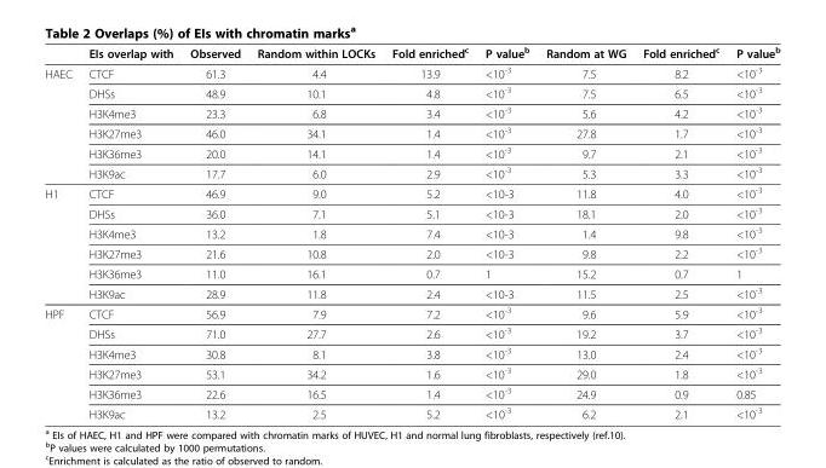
<table><thead><tr><td></td><td>EIs overlap with</td><td>Observed</td><td>Random within LOCKs</td><td>Fold enriched<sup>c</sup></td><td>P value<sup>b</sup></td><td>Random at WG</td><td>Fold enriched<sup>c</sup></td><td>P value<sup>b</sup></td></tr></thead><tbody><tr><td rowspan="6">HAEC</td><td>CTCF</td><td>61.3</td><td>4.4</td><td>13.9</td><td>&lt;10<sup>-3</sup></td><td>7.5</td><td>8.2</td><td>&lt;10<sup>-3</sup></td></tr><tr><td>DHSs</td><td>48.9</td><td>10.1</td><td>4.8</td><td>&lt;10<sup>-3</sup></td><td>7.5</td><td>6.5</td><td>&lt;10<sup>-3</sup></td></tr><tr><td>H3K4me3</td><td>23.3</td><td>6.8</td><td>3.4</td><td>&lt;10<sup>-3</sup></td><td>5.6</td><td>4.2</td><td>&lt;10<sup>-3</sup></td></tr><tr><td>H3K27me3</td><td>46.0</td><td>34.1</td><td>1.4</td><td>&lt;10<sup>-3</sup></td><td>27.8</td><td>1.7</td><td>&lt;10<sup>-3</sup></td></tr><tr><td>H3K36me3</td><td>20.0</td><td>14.1</td><td>1.4</td><td>&lt;10<sup>-3</sup></td><td>9.7</td><td>2.1</td><td>&lt;10<sup>-3</sup></td></tr><tr><td>H3K9ac</td><td>17.7</td><td>6.0</td><td>2.9</td><td>&lt;10<sup>-3</sup></td><td>5.3</td><td>3.3</td><td>&lt;10<sup>-3</sup></td></tr><tr><td rowspan="6">H1</td><td>CTCF</td><td>46.9</td><td>9.0</td><td>5.2</td><td>&lt;10-3</td><td>11.8</td><td>4.0</td><td>&lt;10<sup>-3</sup></td></tr><tr><td>DHSs</td><td>36.0</td><td>7.1</td><td>5.1</td><td>&lt;10-3</td><td>18.1</td><td>2.0</td><td>&lt;10<sup>-3</sup></td></tr><tr><td>H3K4me3</td><td>13.2</td><td>1.8</td><td>7.4</td><td>&lt;10-3</td><td>1.4</td><td>9.8</td><td>&lt;10<sup>-3</sup></td></tr><tr><td>H3K27me3</td><td>21.6</td><td>10.8</td><td>2.0</td><td>&lt;10-3</td><td>9.8</td><td>2.2</td><td>&lt;10<sup>-3</sup></td></tr><tr><td>H3K36me3</td><td>11.0</td><td>16.1</td><td>0.7</td><td>1</td><td>15.2</td><td>0.7</td><td>1</td></tr><tr><td>H3K9ac</td><td>28.9</td><td>11.8</td><td>2.4</td><td>&lt;10-3</td><td>11.5</td><td>2.5</td><td>&lt;10<sup>-3</sup></td></tr><tr><td rowspan="6">HPF</td><td>CTCF</td><td>56.9</td><td>7.9</td><td>7.2</td><td>&lt;10<sup>-3</sup></td><td>9.6</td><td>5.9</td><td>&lt;10<sup>-3</sup></td></tr><tr><td>DHSs</td><td>71.0</td><td>27.7</td><td>2.6</td><td>&lt;10<sup>-3</sup></td><td>19.2</td><td>3.7</td><td>&lt;10<sup>-3</sup></td></tr><tr><td>H3K4me3</td><td>30.8</td><td>8.1</td><td>3.8</td><td>&lt;10<sup>-3</sup></td><td>13.0</td><td>2.4</td><td>&lt;10<sup>-3</sup></td></tr><tr><td>H3K27me3</td><td>53.1</td><td>34.2</td><td>1.6</td><td>&lt;10<sup>-3</sup></td><td>29.0</td><td>1.8</td><td>&lt;10<sup>-3</sup></td></tr><tr><td>H3K36me3</td><td>22.6</td><td>16.5</td><td>1.4</td><td>&lt;10<sup>-3</sup></td><td>24.9</td><td>0.9</td><td>0.85</td></tr><tr><td>H3K9ac</td><td>13.2</td><td>2.5</td><td>5.2</td><td>&lt;10<sup>-3</sup></td><td>6.2</td><td>2.1</td><td>&lt;10<sup>-3</sup></td></tr></tbody></table>